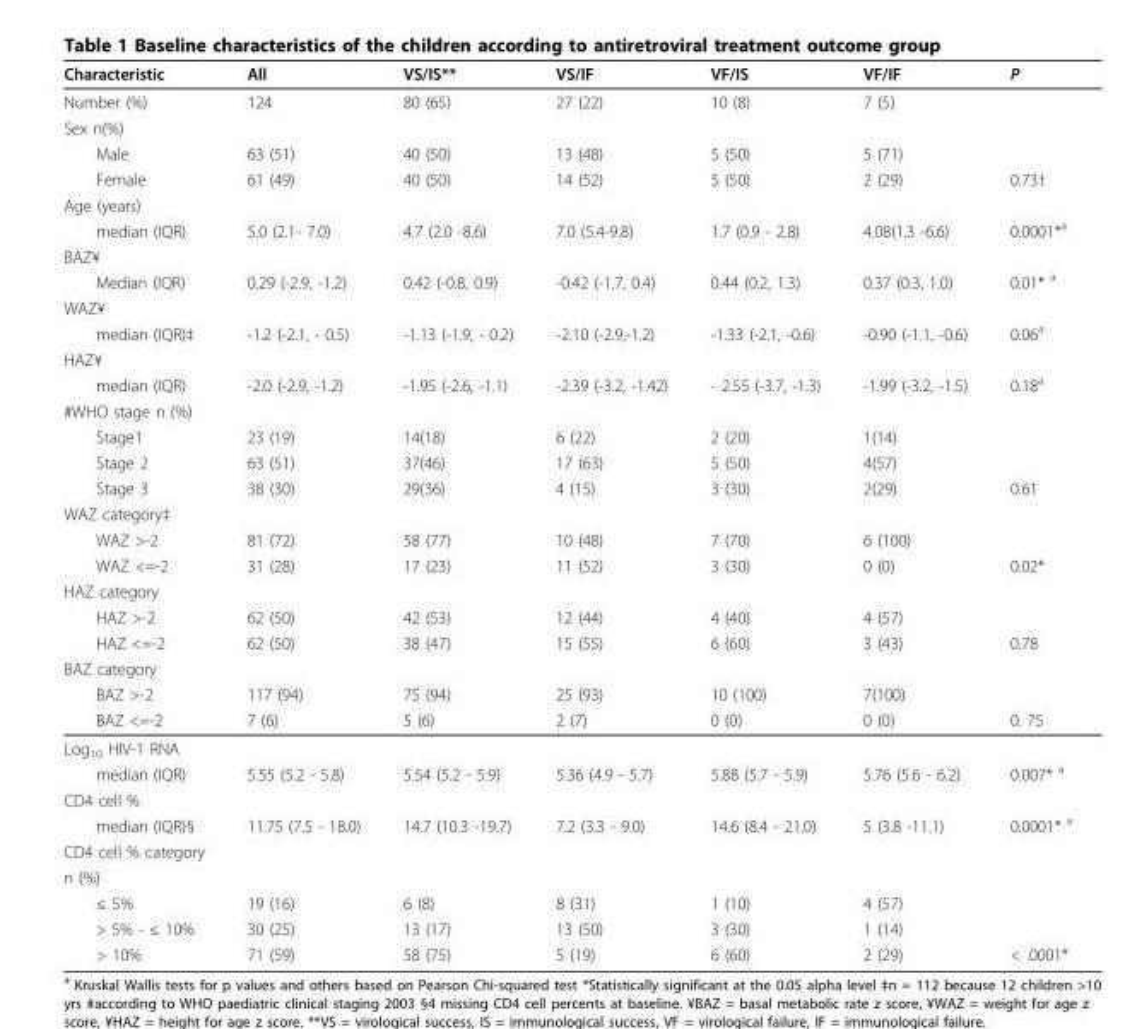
<table><thead><tr><td>Characteristic</td><td>All</td><td>VS/IS**</td><td>VS/IF</td><td>VF/IS</td><td>VF/IF</td><td>P</td></tr></thead><tbody><tr><td>Number (%)</td><td>124</td><td>80 (65)</td><td>27 (22)</td><td>10 (8)</td><td>7 (5)</td><td></td></tr><tr><td colspan="7">Sex n(%)</td></tr><tr><td>Male</td><td>63 (51)</td><td>40 (50)</td><td>13 (48)</td><td>5 (50)</td><td>5 (71)</td><td></td></tr><tr><td>Female</td><td>61 (49)</td><td>40 (50)</td><td>14 (52)</td><td>5 (50)</td><td>2 (29)</td><td>0.73†</td></tr><tr><td colspan="7">Age (years)</td></tr><tr><td>median (IQR)</td><td>5.0 (2.1- 7.0)</td><td>4.7 (2.0 -8.6)</td><td>7.0 (5.4-9.8)</td><td>1.7 (0.9 - 2.8)</td><td>4.08(1.3 -6.6)</td><td>0.0001*<sup>a</sup></td></tr><tr><td colspan="7">BAZ¥</td></tr><tr><td>Median (IQR)</td><td>0.29 (-2.9, -1.2)</td><td>0.42 (-0.8, 0.9)</td><td>-0.42 (-1.7, 0.4)</td><td>0.44 (0.2, 1.3)</td><td>0.37 (0.3, 1.0)</td><td>0.01* <sup>a</sup></td></tr><tr><td colspan="7">WAZ¥</td></tr><tr><td>median (IQR)‡</td><td>-1.2 (-2.1, - 0.5)</td><td>-1.13 (-1.9, - 0.2)</td><td>-2.10 (-2.9,-1.2)</td><td>-1.33 (-2.1, -0.6)</td><td>-0.90 (-1.1, -0.6)</td><td>0.06<sup>a</sup></td></tr><tr><td colspan="7">HAZ¥</td></tr><tr><td>median (IQR)</td><td>-2.0 (-2.9, -1.2)</td><td>-1.95 (-2.6, -1.1)</td><td>-2.39 (-3.2, -1.42)</td><td>- 2.55 (-3.7, -1.3)</td><td>-1.99 (-3.2, -1.5)</td><td>0.18<sup>a</sup></td></tr><tr><td colspan="7">#WHO stage n (%)</td></tr><tr><td>Stage1</td><td>23 (19)</td><td>14(18)</td><td>6 (22)</td><td>2 (20)</td><td>1(14)</td><td></td></tr><tr><td>Stage 2</td><td>63 (51)</td><td>37(46)</td><td>17 (63)</td><td>5 (50)</td><td>4(57)</td><td></td></tr><tr><td>Stage 3</td><td>38 (30)</td><td>29(36)</td><td>4 (15)</td><td>3 (30)</td><td>2(29)</td><td>0.61</td></tr><tr><td colspan="7">WAZ category‡</td></tr><tr><td>WAZ &gt;-2</td><td>81 (72)</td><td>58 (77)</td><td>10 (48)</td><td>7 (70)</td><td>6 (100)</td><td></td></tr><tr><td>WAZ &lt;=-2</td><td>31 (28)</td><td>17 (23)</td><td>11 (52)</td><td>3 (30)</td><td>0 (0)</td><td>0.02*</td></tr><tr><td colspan="7">HAZ category</td></tr><tr><td>HAZ &gt;-2</td><td>62 (50)</td><td>42 (53)</td><td>12 (44)</td><td>4 (40)</td><td>4 (57)</td><td></td></tr><tr><td>HAZ &lt;=-2</td><td>62 (50)</td><td>38 (47)</td><td>15 (55)</td><td>6 (60)</td><td>3 (43)</td><td>0.78</td></tr><tr><td colspan="7">BAZ category</td></tr><tr><td>BAZ &gt;-2</td><td>117 (94)</td><td>75 (94)</td><td>25 (93)</td><td>10 (100)</td><td>7(100)</td><td></td></tr><tr><td>BAZ &lt;=-2</td><td>7 (6)</td><td>5 (6)</td><td>2 (7)</td><td>0 (0)</td><td>0 (0)</td><td>0. 75</td></tr><tr><td colspan="7">Log<sub>10</sub> HIV-1 RNA</td></tr><tr><td>median (IQR)</td><td>5.55 (5.2 - 5.8)</td><td>5.54 (5.2 - 5.9)</td><td>5.36 (4.9 - 5.7)</td><td>5.88 (5.7 - 5.9)</td><td>5.76 (5.6 - 6.2)</td><td>0.007* <sup>a</sup></td></tr><tr><td colspan="7">CD4 cell %</td></tr><tr><td>median (IQR)§</td><td>11.75 (7.5 - 18.0)</td><td>14.7 (10.3 -19.7)</td><td>7.2 (3.3 - 9.0)</td><td>14.6 (8.4 - 21.0)</td><td>5 (3.8 -11.1)</td><td>0.0001* <sup>a</sup></td></tr><tr><td colspan="7">CD4 cell % category</td></tr><tr><td colspan="7">n (%)</td></tr><tr><td>≤ 5%</td><td>19 (16)</td><td>6 (8)</td><td>8 (31)</td><td>1 (10)</td><td>4 (57)</td><td></td></tr><tr><td>&gt; 5% - ≤ 10%</td><td>30 (25)</td><td>13 (17)</td><td>13 (50)</td><td>3 (30)</td><td>1 (14)</td><td></td></tr><tr><td>&gt; 10%</td><td>71 (59)</td><td>58 (75)</td><td>5 (19)</td><td>6 (60)</td><td>2 (29)</td><td>&lt; .0001*</td></tr></tbody></table>